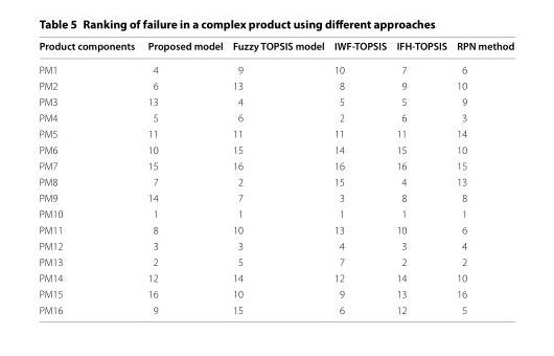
<table><thead><tr><td>Product components</td><td>Proposed model</td><td>Fuzzy TOPSIS model</td><td>IWF-TOPSIS</td><td>IFH-TOPSIS</td><td>RPN method</td></tr></thead><tbody><tr><td>PM1</td><td>4</td><td>9</td><td>10</td><td>7</td><td>6</td></tr><tr><td>PM2</td><td>6</td><td>13</td><td>8</td><td>9</td><td>10</td></tr><tr><td>PM3</td><td>13</td><td>4</td><td>5</td><td>5</td><td>9</td></tr><tr><td>PM4</td><td>5</td><td>6</td><td>2</td><td>6</td><td>3</td></tr><tr><td>PM5</td><td>11</td><td>11</td><td>11</td><td>11</td><td>14</td></tr><tr><td>PM6</td><td>10</td><td>15</td><td>14</td><td>15</td><td>10</td></tr><tr><td>PM7</td><td>15</td><td>16</td><td>16</td><td>16</td><td>15</td></tr><tr><td>PM8</td><td>7</td><td>2</td><td>15</td><td>4</td><td>13</td></tr><tr><td>PM9</td><td>14</td><td>7</td><td>3</td><td>8</td><td>8</td></tr><tr><td>PM10</td><td>1</td><td>1</td><td>1</td><td>1</td><td>1</td></tr><tr><td>PM11</td><td>8</td><td>10</td><td>13</td><td>10</td><td>6</td></tr><tr><td>PM12</td><td>3</td><td>3</td><td>4</td><td>3</td><td>4</td></tr><tr><td>PM13</td><td>2</td><td>5</td><td>7</td><td>2</td><td>2</td></tr><tr><td>PM14</td><td>12</td><td>14</td><td>12</td><td>14</td><td>10</td></tr><tr><td>PM15</td><td>16</td><td>10</td><td>9</td><td>13</td><td>16</td></tr><tr><td>PM16</td><td>9</td><td>15</td><td>6</td><td>12</td><td>5</td></tr></tbody></table>